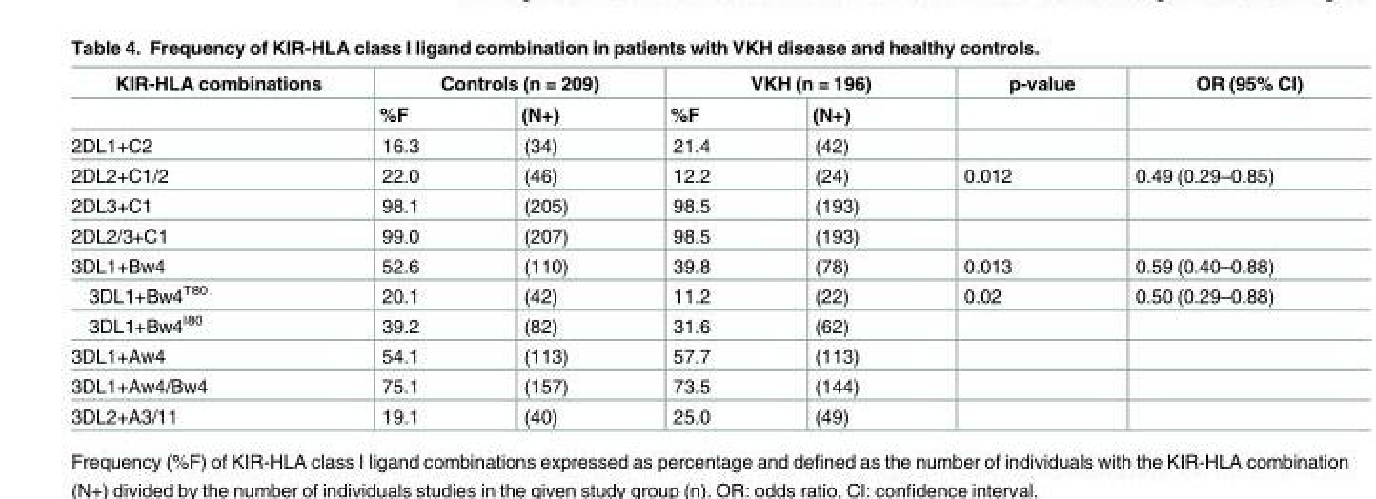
<table><thead><tr><td rowspan="2">KIR-HLA combinations</td><td colspan="2">Controls (n = 209)</td><td colspan="2">VKH (n = 196)</td><td rowspan="2">p-value</td><td rowspan="2">OR (95% CI)</td></tr><tr><td>%F</td><td>(N+)</td><td>%F</td><td>(N+)</td></tr></thead><tbody><tr><td>2DL1+C2</td><td>16.3</td><td>(34)</td><td>21.4</td><td>(42)</td><td></td><td></td></tr><tr><td>2DL2+C1/2</td><td>22.0</td><td>(46)</td><td>12.2</td><td>(24)</td><td>0.012</td><td>0.49 (0.29–0.85)</td></tr><tr><td>2DL3+C1</td><td>98.1</td><td>(205)</td><td>98.5</td><td>(193)</td><td></td><td></td></tr><tr><td>2DL2/3+C1</td><td>99.0</td><td>(207)</td><td>98.5</td><td>(193)</td><td></td><td></td></tr><tr><td>3DL1+Bw4</td><td>52.6</td><td>(110)</td><td>39.8</td><td>(78)</td><td>0.013</td><td>0.59 (0.40–0.88)</td></tr><tr><td>3DL1+Bw4<sup>T80</sup></td><td>20.1</td><td>(42)</td><td>11.2</td><td>(22)</td><td>0.02</td><td>0.50 (0.29–0.88)</td></tr><tr><td>3DL1+Bw4<sup>I80</sup></td><td>39.2</td><td>(82)</td><td>31.6</td><td>(62)</td><td></td><td></td></tr><tr><td>3DL1+Aw4</td><td>54.1</td><td>(113)</td><td>57.7</td><td>(113)</td><td></td><td></td></tr><tr><td>3DL1+Aw4/Bw4</td><td>75.1</td><td>(157)</td><td>73.5</td><td>(144)</td><td></td><td></td></tr><tr><td>3DL2+A3/11</td><td>19.1</td><td>(40)</td><td>25.0</td><td>(49)</td><td></td><td></td></tr></tbody></table>